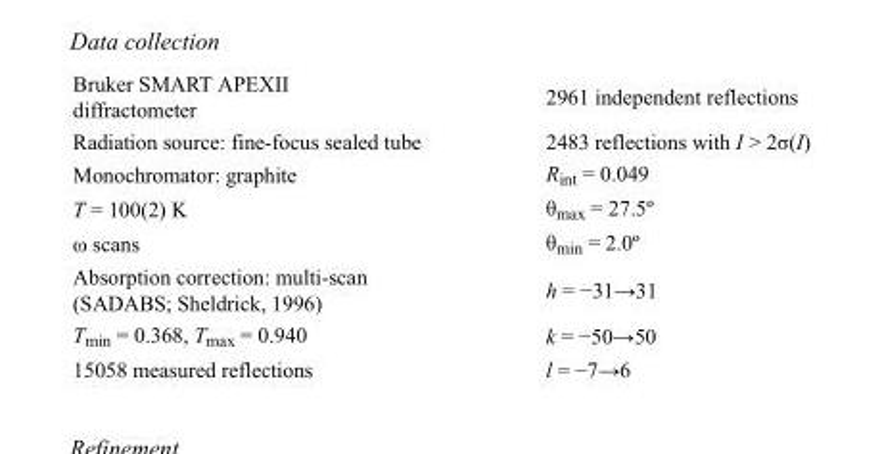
<table><tbody><tr><td>Bruker SMART APEXII diffractometer</td><td>2961 independent reflections</td></tr><tr><td>Radiation source: fine-focus sealed tube</td><td>2483 reflections with I &gt; 2σ(I)</td></tr><tr><td>Monochromator: graphite</td><td>R<sub>int</sub> = 0.049</td></tr><tr><td>T = 100(2) K</td><td>θ<sub>max</sub> = 27.5º</td></tr><tr><td>ω scans</td><td>θ<sub>min</sub> = 2.0º</td></tr><tr><td>Absorption correction: multi-scan (SADABS; Sheldrick, 1996)</td><td>h = −31→31</td></tr><tr><td>T<sub>min</sub> = 0.368, T<sub>max</sub> = 0.940</td><td>k = −50→50</td></tr><tr><td>15058 measured reflections</td><td>l = −7→6</td></tr></tbody></table>